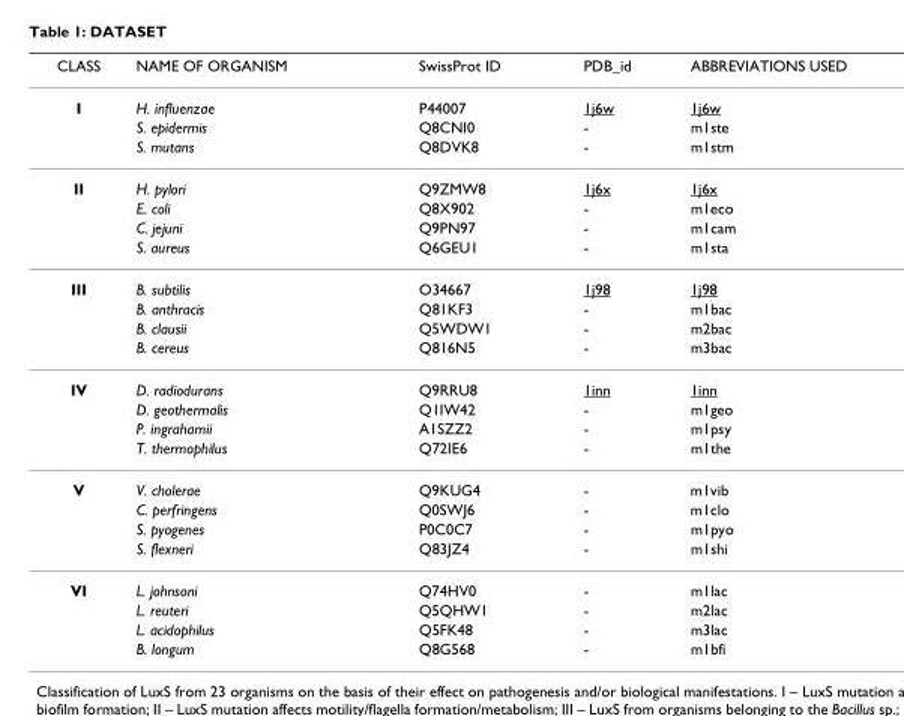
<table><thead><tr><td>CLASS</td><td>NAME OF ORGANISM</td><td>SwissProt ID</td><td>PDB_id</td><td>ABBREVIATIONS USED</td></tr></thead><tbody><tr><td rowspan="3">I</td><td>H. influenzae</td><td>P44007</td><td>1j6w</td><td>1j6w</td></tr><tr><td>S. epidermis</td><td>Q8CNI0</td><td>-</td><td>m1ste</td></tr><tr><td>S. mutans</td><td>Q8DVK8</td><td>-</td><td>m1stm</td></tr><tr><td rowspan="4">II</td><td>H. pylori</td><td>Q9ZMW8</td><td>1j6x</td><td>1j6x</td></tr><tr><td>E. coli</td><td>Q8X902</td><td>-</td><td>m1eco</td></tr><tr><td>C. jejuni</td><td>Q9PN97</td><td>-</td><td>m1cam</td></tr><tr><td>S. aureus</td><td>Q6GEU1</td><td>-</td><td>m1sta</td></tr><tr><td rowspan="4">III</td><td>B. subtilis</td><td>O34667</td><td>1j98</td><td>1j98</td></tr><tr><td>B. anthracis</td><td>Q81KF3</td><td>-</td><td>m1bac</td></tr><tr><td>B. clausii</td><td>Q5WDW1</td><td>-</td><td>m2bac</td></tr><tr><td>B. cereus</td><td>Q816N5</td><td>-</td><td>m3bac</td></tr><tr><td rowspan="4">IV</td><td>D. radiodurans</td><td>Q9RRU8</td><td>1inn</td><td>1inn</td></tr><tr><td>D. geothermalis</td><td>Q1IW42</td><td>-</td><td>m1geo</td></tr><tr><td>P. ingrahamii</td><td>A1SZZ2</td><td>-</td><td>m1psy</td></tr><tr><td>T. thermophilus</td><td>Q72IE6</td><td>-</td><td>m1the</td></tr><tr><td rowspan="4">V</td><td>V. cholerae</td><td>Q9KUG4</td><td>-</td><td>m1vib</td></tr><tr><td>C. perfringens</td><td>Q0SWJ6</td><td>-</td><td>m1clo</td></tr><tr><td>S. pyogenes</td><td>P0C0C7</td><td>-</td><td>m1pyo</td></tr><tr><td>S. flexneri</td><td>Q83JZ4</td><td>-</td><td>m1shi</td></tr><tr><td rowspan="4">VI</td><td>L. johnsoni</td><td>Q74HV0</td><td>-</td><td>m1lac</td></tr><tr><td>L. reuteri</td><td>Q5QHW1</td><td>-</td><td>m2lac</td></tr><tr><td>L. acidophilus</td><td>Q5FK48</td><td>-</td><td>m3lac</td></tr><tr><td>B. longum</td><td>Q8G568</td><td>-</td><td>m1bfi</td></tr></tbody></table>